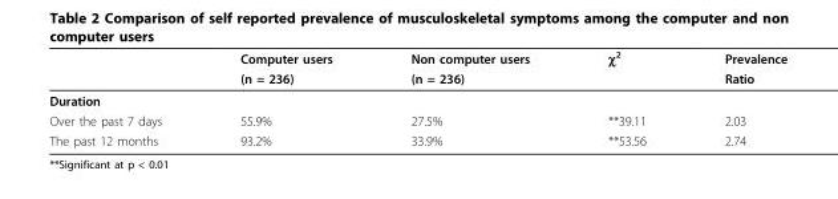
<table><thead><tr><td rowspan="2"></td><td rowspan="2">Computer users (n = 236)</td><td rowspan="2">Non computer users (n = 236)</td><td rowspan="2">χ<sup>2</sup></td><td rowspan="2">Prevalence Ratio</td></tr><tr></tr></thead><tbody><tr><td colspan="5">Duration</td></tr><tr><td>Over the past 7 days</td><td>55.9%</td><td>27.5%</td><td>**39.11</td><td>2.03</td></tr><tr><td>The past 12 months</td><td>93.2%</td><td>33.9%</td><td>**53.56</td><td>2.74</td></tr></tbody></table>